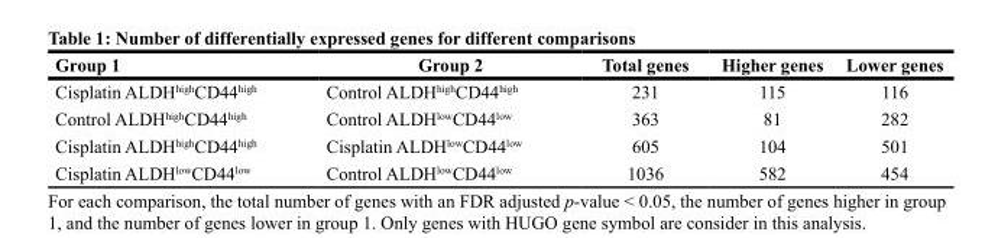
<table><thead><tr><td>Group 1</td><td>Group 2</td><td>Total genes</td><td>Higher genes</td><td>Lower genes</td></tr></thead><tbody><tr><td>Cisplatin ALDH<sup>high</sup>CD44<sup>high</sup></td><td>Control ALDH<sup>high</sup>CD44<sup>high</sup></td><td>231</td><td>115</td><td>116</td></tr><tr><td>Control ALDH<sup>high</sup>CD44<sup>high</sup></td><td>Control ALDH<sup>low</sup>CD44<sup>low</sup></td><td>363</td><td>81</td><td>282</td></tr><tr><td>Cisplatin ALDH<sup>high</sup>CD44<sup>high</sup></td><td>Cisplatin ALDH<sup>low</sup>CD44<sup>low</sup></td><td>605</td><td>104</td><td>501</td></tr><tr><td>Cisplatin ALDH<sup>low</sup>CD44<sup>low</sup></td><td>Control ALDH<sup>low</sup>CD44<sup>low</sup></td><td>1036</td><td>582</td><td>454</td></tr></tbody></table>